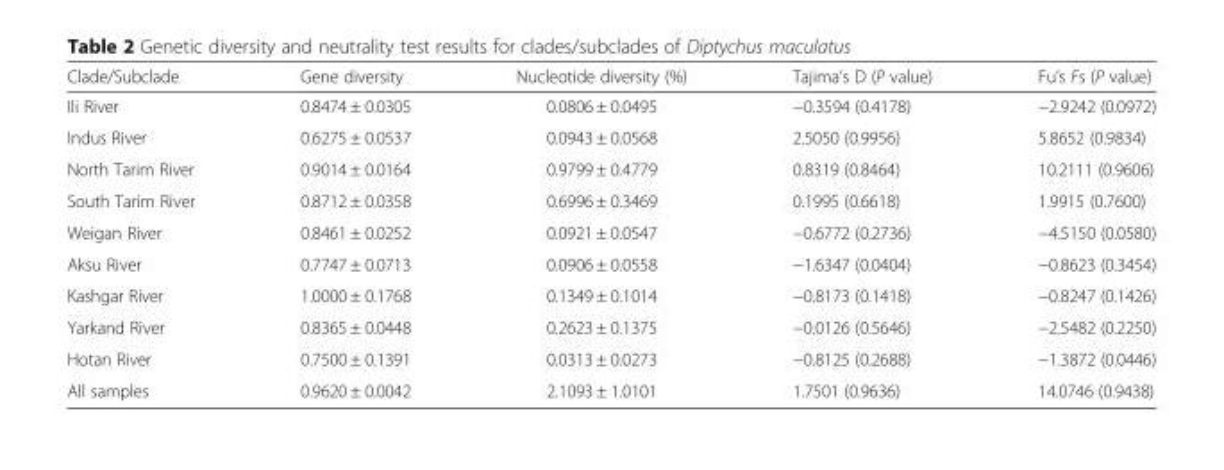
<table><thead><tr><td>Clade/Subclade</td><td>Gene diversity</td><td>Nucleotide diversity (%)</td><td>Tajima’s D (P value)</td><td>Fu’s Fs (P value)</td></tr></thead><tbody><tr><td>Ili River</td><td>0.8474 ± 0.0305</td><td>0.0806 ± 0.0495</td><td>−0.3594 (0.4178)</td><td>−2.9242 (0.0972)</td></tr><tr><td>Indus River</td><td>0.6275 ± 0.0537</td><td>0.0943 ± 0.0568</td><td>2.5050 (0.9956)</td><td>5.8652 (0.9834)</td></tr><tr><td>North Tarim River</td><td>0.9014 ± 0.0164</td><td>0.9799 ± 0.4779</td><td>0.8319 (0.8464)</td><td>10.2111 (0.9606)</td></tr><tr><td>South Tarim River</td><td>0.8712 ± 0.0358</td><td>0.6996 ± 0.3469</td><td>0.1995 (0.6618)</td><td>1.9915 (0.7600)</td></tr><tr><td>Weigan River</td><td>0.8461 ± 0.0252</td><td>0.0921 ± 0.0547</td><td>−0.6772 (0.2736)</td><td>−4.5150 (0.0580)</td></tr><tr><td>Aksu River</td><td>0.7747 ± 0.0713</td><td>0.0906 ± 0.0558</td><td>−1.6347 (0.0404)</td><td>−0.8623 (0.3454)</td></tr><tr><td>Kashgar River</td><td>1.0000 ± 0.1768</td><td>0.1349 ± 0.1014</td><td>−0.8173 (0.1418)</td><td>−0.8247 (0.1426)</td></tr><tr><td>Yarkand River</td><td>0.8365 ± 0.0448</td><td>0.2623 ± 0.1375</td><td>−0.0126 (0.5646)</td><td>−2.5482 (0.2250)</td></tr><tr><td>Hotan River</td><td>0.7500 ± 0.1391</td><td>0.0313 ± 0.0273</td><td>−0.8125 (0.2688)</td><td>−1.3872 (0.0446)</td></tr><tr><td>All samples</td><td>0.9620 ± 0.0042</td><td>2.1093 ± 1.0101</td><td>1.7501 (0.9636)</td><td>14.0746 (0.9438)</td></tr></tbody></table>